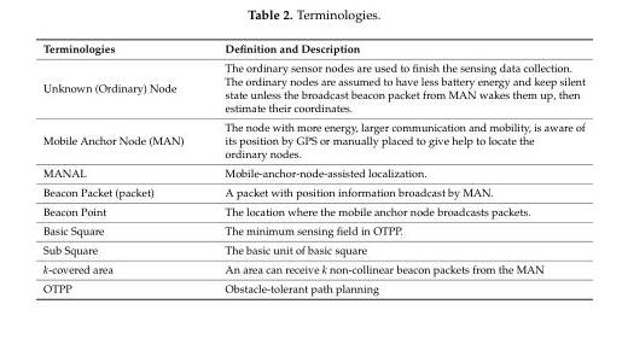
<table><thead><tr><td>Terminologies</td><td>Definition and Description</td></tr></thead><tbody><tr><td>Unknown (Ordinary) Node</td><td>The ordinary sensor nodes are used to finish the sensing data collection. The ordinary nodes are assumed to have less battery energy and keep silent state unless the broadcast beacon packet from MAN wakes them up, then estimate their coordinates.</td></tr><tr><td>Mobile Anchor Node (MAN)</td><td>The node with more energy, larger communication and mobility, is aware of its position by GPS or manually placed to give help to locate the ordinary nodes.</td></tr><tr><td>MANAL</td><td>Mobile-anchor-node-assisted localization.</td></tr><tr><td>Beacon Packet (packet)</td><td>A packet with position information broadcast by MAN.</td></tr><tr><td>Beacon Point</td><td>The location where the mobile anchor node broadcasts packets.</td></tr><tr><td>Basic Square</td><td>The minimum sensing field in OTPP.</td></tr><tr><td>Sub Square</td><td>The basic unit of basic square</td></tr><tr><td>k-covered area</td><td>An area can receive k non-collinear beacon packets from the MAN</td></tr><tr><td>OTPP</td><td>Obstacle-tolerant path planning</td></tr></tbody></table>